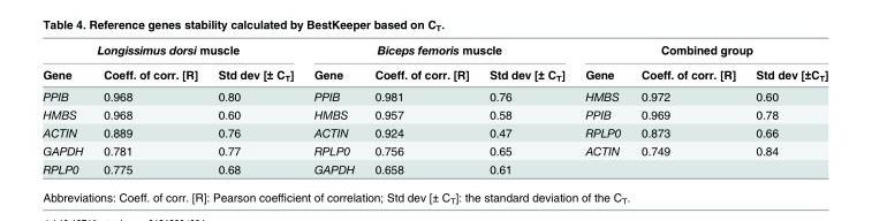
<table><thead><tr><td colspan="3">Longissimus dorsi muscle</td><td colspan="3">Biceps femoris muscle</td><td colspan="3">Combined group</td></tr><tr><td>Gene</td><td>Coeff. of corr. [R]</td><td>Std dev [± C<sub>T</sub>]</td><td>Gene</td><td>Coeff. of corr. [R]</td><td>Std dev [± C<sub>T</sub>]</td><td>Gene</td><td>Coeff. of corr. [R]</td><td>Std dev [±C<sub>T</sub>]</td></tr></thead><tbody><tr><td>PPIB</td><td>0.968</td><td>0.80</td><td>PPIB</td><td>0.981</td><td>0.76</td><td>HMBS</td><td>0.972</td><td>0.60</td></tr><tr><td>HMBS</td><td>0.968</td><td>0.60</td><td>HMBS</td><td>0.957</td><td>0.58</td><td>PPIB</td><td>0.969</td><td>0.78</td></tr><tr><td>ACTIN</td><td>0.889</td><td>0.76</td><td>ACTIN</td><td>0.924</td><td>0.47</td><td>RPLP0</td><td>0.873</td><td>0.66</td></tr><tr><td>GAPDH</td><td>0.781</td><td>0.77</td><td>RPLP0</td><td>0.756</td><td>0.65</td><td>ACTIN</td><td>0.749</td><td>0.84</td></tr><tr><td>RPLP0</td><td>0.775</td><td>0.68</td><td>GAPDH</td><td>0.658</td><td>0.61</td><td></td><td></td><td></td></tr></tbody></table>